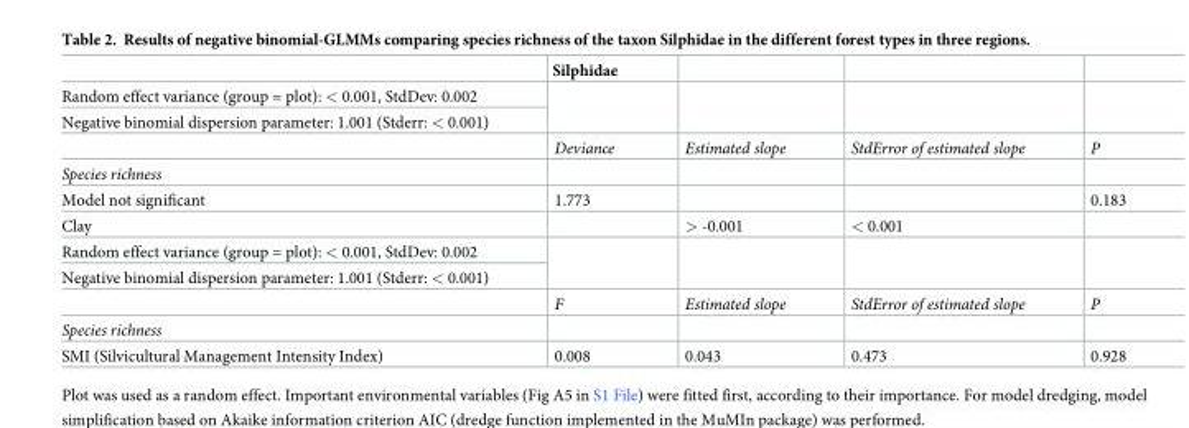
<table><thead><tr><td></td><td>Silphidae</td><td></td><td></td><td></td></tr></thead><tbody><tr><td>Random effect variance (group = plot): &lt; 0.001, StdDev: 0.002</td><td rowspan="2"></td><td rowspan="2"></td><td rowspan="2"></td><td rowspan="2"></td></tr><tr><td rowspan="2">Negative binomial dispersion parameter: 1.001 (Stderr: &lt; 0.001)</td></tr><tr><td>Deviance</td><td>Estimated slope</td><td>StdError of estimated slope</td><td>P</td></tr><tr><td colspan="5">Species richness</td></tr><tr><td>Model not significant</td><td>1.773</td><td></td><td></td><td>0.183</td></tr><tr><td>Clay</td><td></td><td>&gt; -0.001</td><td>&lt; 0.001</td><td></td></tr><tr><td>Random effect variance (group = plot): &lt; 0.001, StdDev: 0.002</td><td rowspan="2"></td><td rowspan="2"></td><td rowspan="2"></td><td rowspan="2"></td></tr><tr><td rowspan="2">Negative binomial dispersion parameter: 1.001 (Stderr: &lt; 0.001)</td></tr><tr><td>F</td><td>Estimated slope</td><td>StdError of estimated slope</td><td>P</td></tr><tr><td colspan="5">Species richness</td></tr><tr><td>SMI (Silvicultural Management Intensity Index)</td><td>0.008</td><td>0.043</td><td>0.473</td><td>0.928</td></tr></tbody></table>